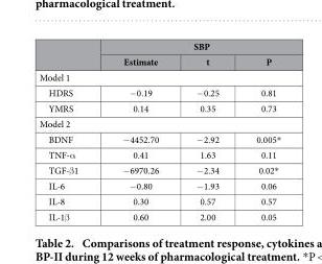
<table><thead><tr><td rowspan="2"></td><td colspan="3">SBP</td></tr><tr><td>Estimate</td><td>t</td><td>P</td></tr></thead><tbody><tr><td colspan="4">Model 1</td></tr><tr><td>HDRS</td><td>− 0.19</td><td>− 0.25</td><td>0.81</td></tr><tr><td>YMRS</td><td>0.14</td><td>0.35</td><td>0.73</td></tr><tr><td colspan="4">Model 2</td></tr><tr><td>BDNF</td><td>− 4452.70</td><td>− 2.92</td><td>0.005*</td></tr><tr><td>TNF-α</td><td>0.41</td><td>1.63</td><td>0.11</td></tr><tr><td>TGF-β 1</td><td>− 6970.26</td><td>− 2.34</td><td>0.02*</td></tr><tr><td>IL-6</td><td>− 0.80</td><td>− 1.93</td><td>0.06</td></tr><tr><td>IL-8</td><td>0.30</td><td>0.57</td><td>0.57</td></tr><tr><td>IL-1β</td><td>0.60</td><td>2.00</td><td>0.05</td></tr></tbody></table>